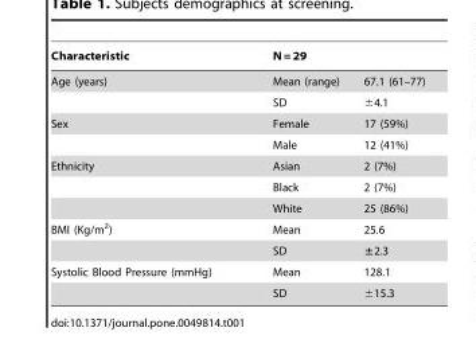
<table><thead><tr><td rowspan="2">Characteristic Age (years)</td><td colspan="2">N = 29</td></tr><tr><td>Mean (range)</td><td>67.1 (61–77)</td></tr></thead><tbody><tr><td></td><td>SD</td><td>±4.1</td></tr><tr><td rowspan="2">Sex</td><td>Female</td><td>17 (59%)</td></tr><tr><td>Male</td><td>12 (41%)</td></tr><tr><td rowspan="3">Ethnicity</td><td>Asian</td><td>2 (7%)</td></tr><tr><td>Black</td><td>2 (7%)</td></tr><tr><td>White</td><td>25 (86%)</td></tr><tr><td rowspan="2">BMI (Kg/m<sup>2</sup>)</td><td>Mean</td><td>25.6</td></tr><tr><td>SD</td><td>±2.3</td></tr><tr><td rowspan="2">Systolic Blood Pressure (mmHg)</td><td>Mean</td><td>128.1</td></tr><tr><td>SD</td><td>±15.3</td></tr></tbody></table>